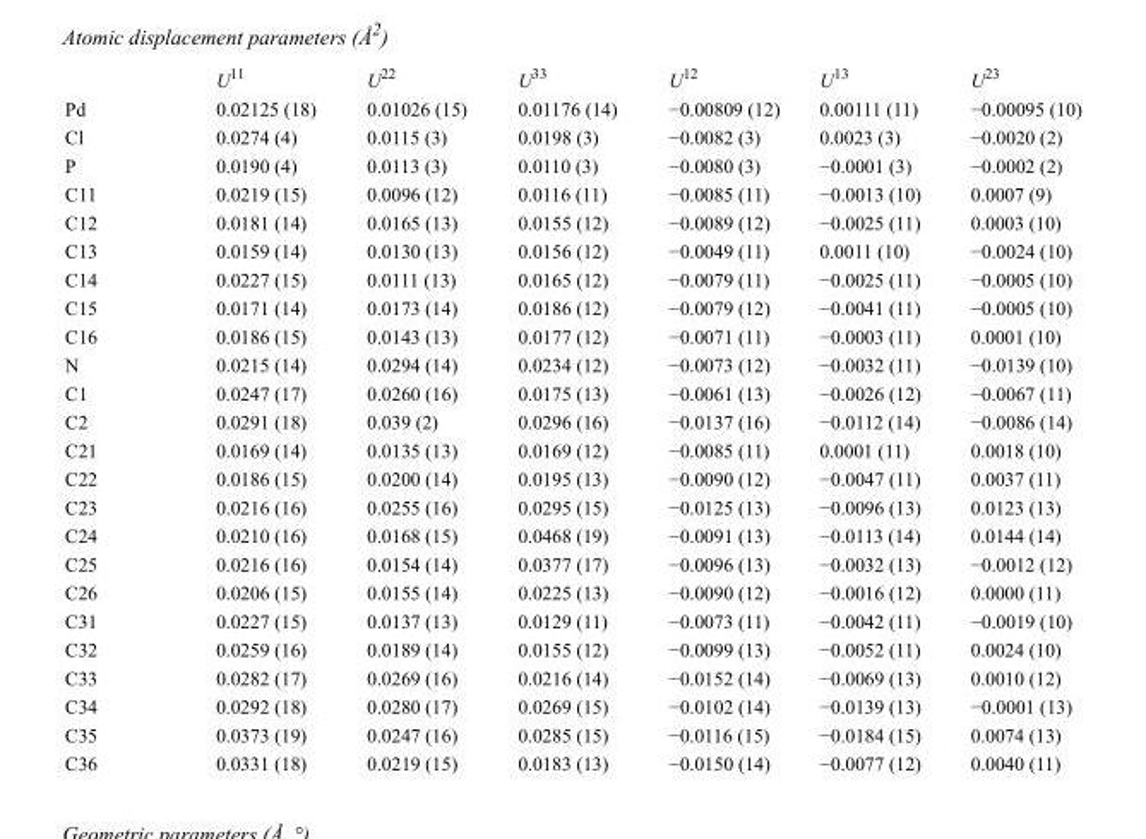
<table><thead><tr><td></td><td>U<sup>11</sup></td><td>U<sup>22</sup></td><td>U<sup>33</sup></td><td>U<sup>12</sup></td><td>U<sup>13</sup></td><td>U<sup>23</sup></td></tr></thead><tbody><tr><td>Pd</td><td>0.02125 (18)</td><td>0.01026 (15)</td><td>0.01176 (14)</td><td>−0.00809 (12)</td><td>0.00111 (11)</td><td>−0.00095 (10)</td></tr><tr><td>Cl</td><td>0.0274 (4)</td><td>0.0115 (3)</td><td>0.0198 (3)</td><td>−0.0082 (3)</td><td>0.0023 (3)</td><td>−0.0020 (2)</td></tr><tr><td>P</td><td>0.0190 (4)</td><td>0.0113 (3)</td><td>0.0110 (3)</td><td>−0.0080 (3)</td><td>−0.0001 (3)</td><td>−0.0002 (2)</td></tr><tr><td>C11</td><td>0.0219 (15)</td><td>0.0096 (12)</td><td>0.0116 (11)</td><td>−0.0085 (11)</td><td>−0.0013 (10)</td><td>0.0007 (9)</td></tr><tr><td>C12</td><td>0.0181 (14)</td><td>0.0165 (13)</td><td>0.0155 (12)</td><td>−0.0089 (12)</td><td>−0.0025 (11)</td><td>0.0003 (10)</td></tr><tr><td>C13</td><td>0.0159 (14)</td><td>0.0130 (13)</td><td>0.0156 (12)</td><td>−0.0049 (11)</td><td>0.0011 (10)</td><td>−0.0024 (10)</td></tr><tr><td>C14</td><td>0.0227 (15)</td><td>0.0111 (13)</td><td>0.0165 (12)</td><td>−0.0079 (11)</td><td>−0.0025 (11)</td><td>−0.0005 (10)</td></tr><tr><td>C15</td><td>0.0171 (14)</td><td>0.0173 (14)</td><td>0.0186 (12)</td><td>−0.0079 (12)</td><td>−0.0041 (11)</td><td>−0.0005 (10)</td></tr><tr><td>C16</td><td>0.0186 (15)</td><td>0.0143 (13)</td><td>0.0177 (12)</td><td>−0.0071 (11)</td><td>−0.0003 (11)</td><td>0.0001 (10)</td></tr><tr><td>N</td><td>0.0215 (14)</td><td>0.0294 (14)</td><td>0.0234 (12)</td><td>−0.0073 (12)</td><td>−0.0032 (11)</td><td>−0.0139 (10)</td></tr><tr><td>C1</td><td>0.0247 (17)</td><td>0.0260 (16)</td><td>0.0175 (13)</td><td>−0.0061 (13)</td><td>−0.0026 (12)</td><td>−0.0067 (11)</td></tr><tr><td>C2</td><td>0.0291 (18)</td><td>0.039 (2)</td><td>0.0296 (16)</td><td>−0.0137 (16)</td><td>−0.0112 (14)</td><td>−0.0086 (14)</td></tr><tr><td>C21</td><td>0.0169 (14)</td><td>0.0135 (13)</td><td>0.0169 (12)</td><td>−0.0085 (11)</td><td>0.0001 (11)</td><td>0.0018 (10)</td></tr><tr><td>C22</td><td>0.0186 (15)</td><td>0.0200 (14)</td><td>0.0195 (13)</td><td>−0.0090 (12)</td><td>−0.0047 (11)</td><td>0.0037 (11)</td></tr><tr><td>C23</td><td>0.0216 (16)</td><td>0.0255 (16)</td><td>0.0295 (15)</td><td>−0.0125 (13)</td><td>−0.0096 (13)</td><td>0.0123 (13)</td></tr><tr><td>C24</td><td>0.0210 (16)</td><td>0.0168 (15)</td><td>0.0468 (19)</td><td>−0.0091 (13)</td><td>−0.0113 (14)</td><td>0.0144 (14)</td></tr><tr><td>C25</td><td>0.0216 (16)</td><td>0.0154 (14)</td><td>0.0377 (17)</td><td>−0.0096 (13)</td><td>−0.0032 (13)</td><td>−0.0012 (12)</td></tr><tr><td>C26</td><td>0.0206 (15)</td><td>0.0155 (14)</td><td>0.0225 (13)</td><td>−0.0090 (12)</td><td>−0.0016 (12)</td><td>0.0000 (11)</td></tr><tr><td>C31</td><td>0.0227 (15)</td><td>0.0137 (13)</td><td>0.0129 (11)</td><td>−0.0073 (11)</td><td>−0.0042 (11)</td><td>−0.0019 (10)</td></tr><tr><td>C32</td><td>0.0259 (16)</td><td>0.0189 (14)</td><td>0.0155 (12)</td><td>−0.0099 (13)</td><td>−0.0052 (11)</td><td>0.0024 (10)</td></tr><tr><td>C33</td><td>0.0282 (17)</td><td>0.0269 (16)</td><td>0.0216 (14)</td><td>−0.0152 (14)</td><td>−0.0069 (13)</td><td>0.0010 (12)</td></tr><tr><td>C34</td><td>0.0292 (18)</td><td>0.0280 (17)</td><td>0.0269 (15)</td><td>−0.0102 (14)</td><td>−0.0139 (13)</td><td>−0.0001 (13)</td></tr><tr><td>C35</td><td>0.0373 (19)</td><td>0.0247 (16)</td><td>0.0285 (15)</td><td>−0.0116 (15)</td><td>−0.0184 (15)</td><td>0.0074 (13)</td></tr><tr><td>C36</td><td>0.0331 (18)</td><td>0.0219 (15)</td><td>0.0183 (13)</td><td>−0.0150 (14)</td><td>−0.0077 (12)</td><td>0.0040 (11)</td></tr></tbody></table>